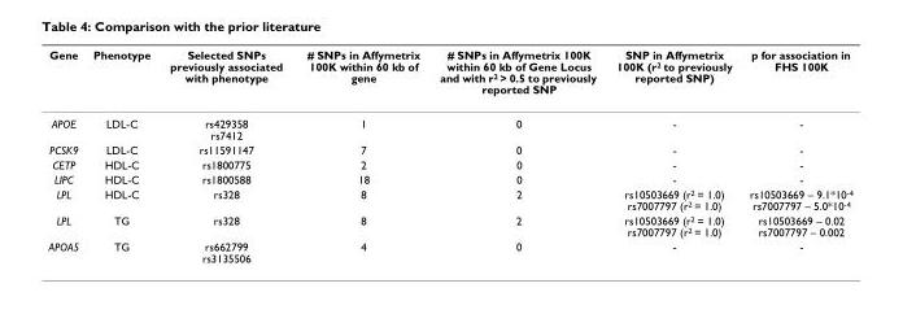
<table><thead><tr><td>Gene</td><td>Phenotype</td><td>Selected SNPs previously associated with phenotype</td><td># SNPs in Affymetrix 100K within 60 kb of gene</td><td># SNPs in Affymetrix 100K within 60 kb of Gene Locus and with r<sup>2</sup> &gt; 0.5 to previously reported SNP</td><td>SNP in Affymetrix 100K (r<sup>2</sup> to previously reported SNP)</td><td>p for association in FHS 100K</td></tr></thead><tbody><tr><td>APOE</td><td>LDL-C</td><td>rs429358 rs7412</td><td>1</td><td>0</td><td>-</td><td>-</td></tr><tr><td>PCSK9</td><td>LDL-C</td><td>rs11591147</td><td>7</td><td>0</td><td>-</td><td>-</td></tr><tr><td>CETP</td><td>HDL-C</td><td>rs1800775</td><td>2</td><td>0</td><td>-</td><td>-</td></tr><tr><td>LIPC</td><td>HDL-C</td><td>rs1800588</td><td>18</td><td>0</td><td>-</td><td>-</td></tr><tr><td>LPL</td><td>HDL-C</td><td>rs328</td><td>8</td><td>2</td><td>rs10503669 (r<sup>2</sup> = 1.0) rs7007797 (r<sup>2</sup> = 1.0)</td><td>rs10503669 – 9.1*10<sup>-4</sup> rs7007797 – 5.0*10<sup>-4</sup></td></tr><tr><td>LPL</td><td>TG</td><td>rs328</td><td>8</td><td>2</td><td>rs10503669 (r<sup>2</sup> = 1.0) rs7007797 (r<sup>2</sup> = 1.0)</td><td>rs10503669 – 0.02 rs7007797 – 0.002</td></tr><tr><td>APOA5</td><td>TG</td><td>rs662799 rs3135506</td><td>4</td><td>0</td><td>-</td><td>-</td></tr></tbody></table>